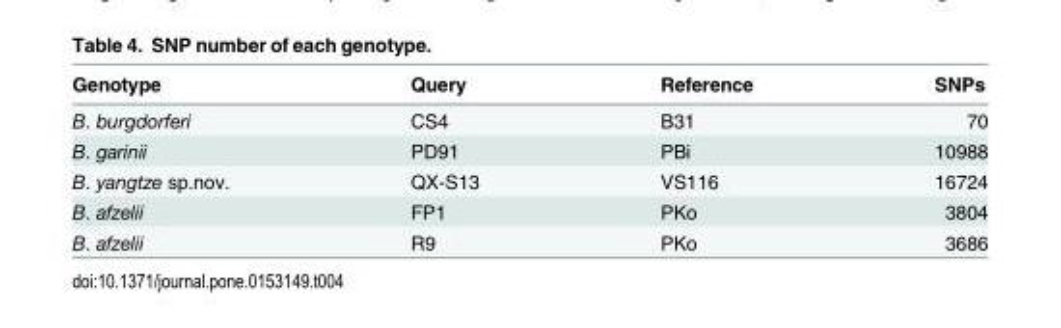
<table><thead><tr><td>Genotype</td><td>Query</td><td>Reference</td><td>SNPs</td></tr></thead><tbody><tr><td>B. burgdorferi</td><td>CS4</td><td>B31</td><td>70</td></tr><tr><td>B. garinii</td><td>PD91</td><td>PBi</td><td>10988</td></tr><tr><td>B. yangtze sp.nov.</td><td>QX-S13</td><td>VS116</td><td>16724</td></tr><tr><td>B. afzelii</td><td>FP1</td><td>PKo</td><td>3804</td></tr><tr><td>B. afzelii</td><td>R9</td><td>PKo</td><td>3686</td></tr></tbody></table>